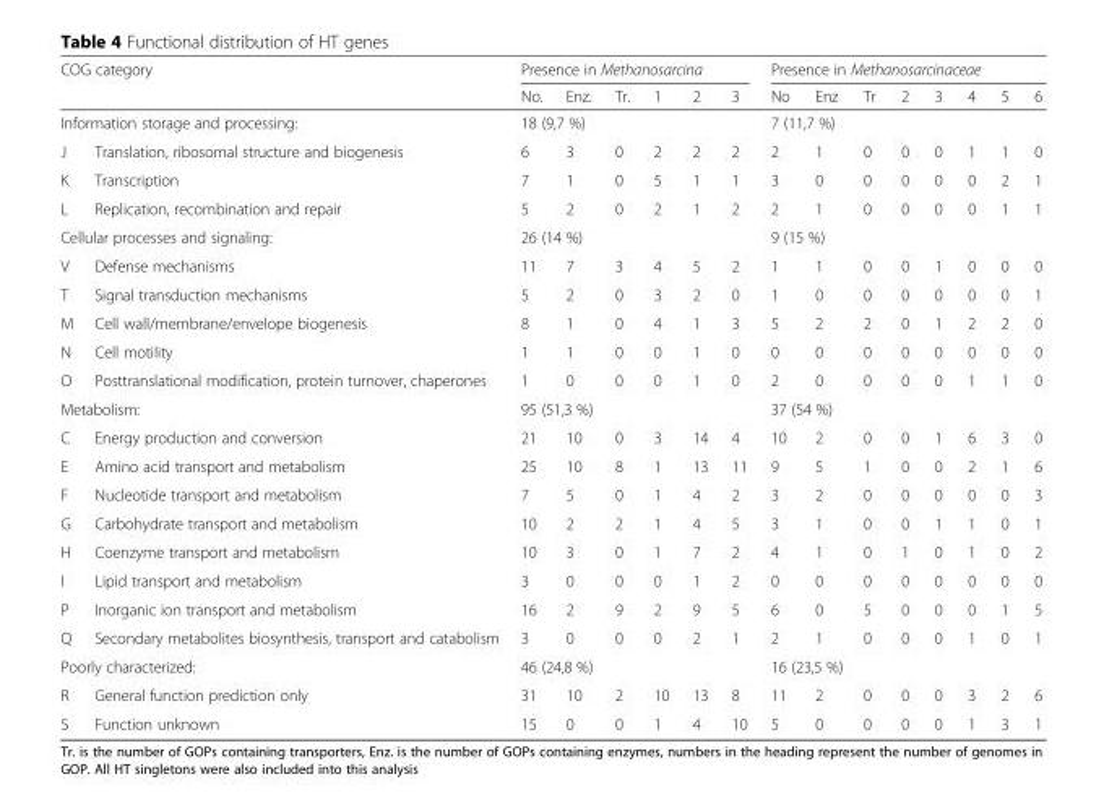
<table><thead><tr><td colspan="2">COG category</td><td colspan="6">Presence in Methanosarcina</td><td colspan="8">Presence in Methanosarcinaceae</td></tr><tr><td></td><td></td><td>No.</td><td>Enz.</td><td>Tr.</td><td>1</td><td>2</td><td>3</td><td>No</td><td>Enz</td><td>Tr</td><td>2</td><td>3</td><td>4</td><td>5</td><td>6</td></tr></thead><tbody><tr><td colspan="2">Information storage and processing:</td><td colspan="6">18 (9,7 %)</td><td colspan="8">7 (11,7 %)</td></tr><tr><td>J</td><td>Translation, ribosomal structure and biogenesis</td><td>6</td><td>3</td><td>0</td><td>2</td><td>2</td><td>2</td><td>2</td><td>1</td><td>0</td><td>0</td><td>0</td><td>1</td><td>1</td><td>0</td></tr><tr><td>K</td><td>Transcription</td><td>7</td><td>1</td><td>0</td><td>5</td><td>1</td><td>1</td><td>3</td><td>0</td><td>0</td><td>0</td><td>0</td><td>0</td><td>2</td><td>1</td></tr><tr><td>L</td><td>Replication, recombination and repair</td><td>5</td><td>2</td><td>0</td><td>2</td><td>1</td><td>2</td><td>2</td><td>1</td><td>0</td><td>0</td><td>0</td><td>0</td><td>1</td><td>1</td></tr><tr><td colspan="2">Cellular processes and signaling:</td><td colspan="6">26 (14 %)</td><td colspan="8">9 (15 %)</td></tr><tr><td>V</td><td>Defense mechanisms</td><td>11</td><td>7</td><td>3</td><td>4</td><td>5</td><td>2</td><td>1</td><td>1</td><td>0</td><td>0</td><td>1</td><td>0</td><td>0</td><td>0</td></tr><tr><td>T</td><td>Signal transduction mechanisms</td><td>5</td><td>2</td><td>0</td><td>3</td><td>2</td><td>0</td><td>1</td><td>0</td><td>0</td><td>0</td><td>0</td><td>0</td><td>0</td><td>1</td></tr><tr><td>M</td><td>Cell wall/membrane/envelope biogenesis</td><td>8</td><td>1</td><td>0</td><td>4</td><td>1</td><td>3</td><td>5</td><td>2</td><td>2</td><td>0</td><td>1</td><td>2</td><td>2</td><td>0</td></tr><tr><td>N</td><td>Cell motility</td><td>1</td><td>1</td><td>0</td><td>0</td><td>1</td><td>0</td><td>0</td><td>0</td><td>0</td><td>0</td><td>0</td><td>0</td><td>0</td><td>0</td></tr><tr><td>O</td><td>Posttranslational modification, protein turnover, chaperones</td><td>1</td><td>0</td><td>0</td><td>0</td><td>1</td><td>0</td><td>2</td><td>0</td><td>0</td><td>0</td><td>0</td><td>1</td><td>1</td><td>0</td></tr><tr><td colspan="2">Metabolism:</td><td colspan="6">95 (51,3 %)</td><td colspan="8">37 (54 %)</td></tr><tr><td>C</td><td>Energy production and conversion</td><td>21</td><td>10</td><td>0</td><td>3</td><td>14</td><td>4</td><td>10</td><td>2</td><td>0</td><td>0</td><td>1</td><td>6</td><td>3</td><td>0</td></tr><tr><td>E</td><td>Amino acid transport and metabolism</td><td>25</td><td>10</td><td>8</td><td>1</td><td>13</td><td>11</td><td>9</td><td>5</td><td>1</td><td>0</td><td>0</td><td>2</td><td>1</td><td>6</td></tr><tr><td>F</td><td>Nucleotide transport and metabolism</td><td>7</td><td>5</td><td>0</td><td>1</td><td>4</td><td>2</td><td>3</td><td>2</td><td>0</td><td>0</td><td>0</td><td>0</td><td>0</td><td>3</td></tr><tr><td>G</td><td>Carbohydrate transport and metabolism</td><td>10</td><td>2</td><td>2</td><td>1</td><td>4</td><td>5</td><td>3</td><td>1</td><td>0</td><td>0</td><td>1</td><td>1</td><td>0</td><td>1</td></tr><tr><td>H</td><td>Coenzyme transport and metabolism</td><td>10</td><td>3</td><td>0</td><td>1</td><td>7</td><td>2</td><td>4</td><td>1</td><td>0</td><td>1</td><td>0</td><td>1</td><td>0</td><td>2</td></tr><tr><td>I</td><td>Lipid transport and metabolism</td><td>3</td><td>0</td><td>0</td><td>0</td><td>1</td><td>2</td><td>0</td><td>0</td><td>0</td><td>0</td><td>0</td><td>0</td><td>0</td><td>0</td></tr><tr><td>P</td><td>Inorganic ion transport and metabolism</td><td>16</td><td>2</td><td>9</td><td>2</td><td>9</td><td>5</td><td>6</td><td>0</td><td>5</td><td>0</td><td>0</td><td>0</td><td>1</td><td>5</td></tr><tr><td>Q</td><td>Secondary metabolites biosynthesis, transport and catabolism</td><td>3</td><td>0</td><td>0</td><td>0</td><td>2</td><td>1</td><td>2</td><td>1</td><td>0</td><td>0</td><td>0</td><td>1</td><td>0</td><td>1</td></tr><tr><td colspan="2">Poorly characterized:</td><td colspan="6">46 (24,8 %)</td><td colspan="8">16 (23,5 %)</td></tr><tr><td>R</td><td>General function prediction only</td><td>31</td><td>10</td><td>2</td><td>10</td><td>13</td><td>8</td><td>11</td><td>2</td><td>0</td><td>0</td><td>0</td><td>3</td><td>2</td><td>6</td></tr><tr><td>S</td><td>Function unknown</td><td>15</td><td>0</td><td>0</td><td>1</td><td>4</td><td>10</td><td>5</td><td>0</td><td>0</td><td>0</td><td>0</td><td>1</td><td>3</td><td>1</td></tr></tbody></table>